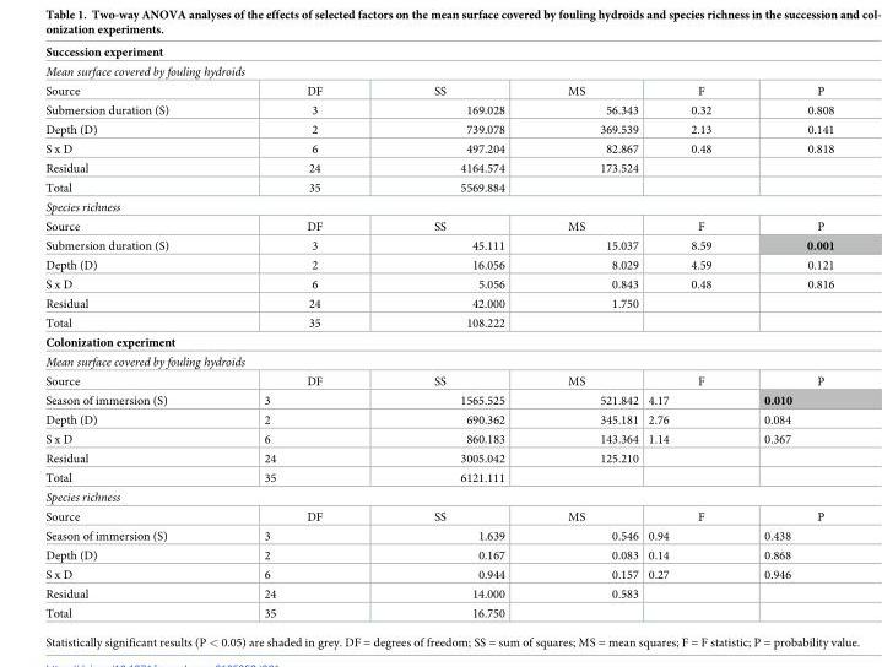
<table><tbody><tr><td colspan="6">Succession experiment</td></tr><tr><td colspan="6">Mean surface covered by fouling hydroids</td></tr><tr><td>Source</td><td>DF</td><td>SS</td><td>MS</td><td>F</td><td>P</td></tr><tr><td>Submersion duration (S)</td><td>3</td><td>169.028</td><td>56.343</td><td>0.32</td><td>0.808</td></tr><tr><td>Depth (D)</td><td>2</td><td>739.078</td><td>369.539</td><td>2.13</td><td>0.141</td></tr><tr><td>S x D</td><td>6</td><td>497.204</td><td>82.867</td><td>0.48</td><td>0.818</td></tr><tr><td>Residual</td><td>24</td><td>4164.574</td><td>173.524</td><td></td><td></td></tr><tr><td>Total</td><td>35</td><td>5569.884</td><td></td><td></td><td></td></tr><tr><td colspan="6">Species richness</td></tr><tr><td>Source</td><td>DF</td><td>SS</td><td>MS</td><td>F</td><td>P</td></tr><tr><td>Submersion duration (S)</td><td>3</td><td>45.111</td><td>15.037</td><td>8.59</td><td>0.001</td></tr><tr><td>Depth (D)</td><td>2</td><td>16.056</td><td>8.029</td><td>4.59</td><td>0.121</td></tr><tr><td>S x D</td><td>6</td><td>5.056</td><td>0.843</td><td>0.48</td><td>0.816</td></tr><tr><td>Residual</td><td>24</td><td>42.000</td><td>1.750</td><td></td><td></td></tr><tr><td>Total</td><td>35</td><td>108.222</td><td></td><td></td><td></td></tr><tr><td colspan="6">Colonization experiment</td></tr><tr><td colspan="6">Mean surface covered by fouling hydroids</td></tr><tr><td>Source</td><td>DF</td><td>SS</td><td>MS</td><td>F</td><td>P</td></tr><tr><td>Season of immersion (S)</td><td>3</td><td>1565.525</td><td>521.842</td><td>4.17</td><td>0.010</td></tr><tr><td>Depth (D)</td><td>2</td><td>690.362</td><td>345.181</td><td>2.76</td><td>0.084</td></tr><tr><td>S x D</td><td>6</td><td>860.183</td><td>143.364</td><td>1.14</td><td>0.367</td></tr><tr><td>Residual</td><td>24</td><td>3005.042</td><td>125.210</td><td></td><td></td></tr><tr><td>Total</td><td>35</td><td>6121.111</td><td></td><td></td><td></td></tr><tr><td colspan="6">Species richness</td></tr><tr><td>Source</td><td>DF</td><td>SS</td><td>MS</td><td>F</td><td>P</td></tr><tr><td>Season of immersion (S)</td><td>3</td><td>1.639</td><td>0.546</td><td>0.94</td><td>0.438</td></tr><tr><td>Depth (D)</td><td>2</td><td>0.167</td><td>0.083</td><td>0.14</td><td>0.868</td></tr><tr><td>S x D</td><td>6</td><td>0.944</td><td>0.157</td><td>0.27</td><td>0.946</td></tr><tr><td>Residual</td><td>24</td><td>14.000</td><td>0.583</td><td></td><td></td></tr><tr><td>Total</td><td>35</td><td>16.750</td><td></td><td></td><td></td></tr></tbody></table>